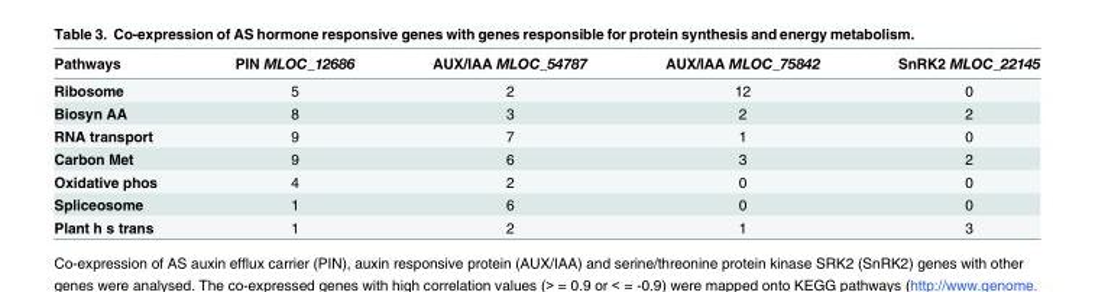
<table><thead><tr><td>Pathways</td><td>PIN MLOC_12686</td><td>AUX/IAA MLOC_54787</td><td>AUX/IAA MLOC_75842</td><td>SnRK2 MLOC_22145</td></tr></thead><tbody><tr><td>Ribosome</td><td>5</td><td>2</td><td>12</td><td>0</td></tr><tr><td>Biosyn AA</td><td>8</td><td>3</td><td>2</td><td>2</td></tr><tr><td>RNA transport</td><td>9</td><td>7</td><td>1</td><td>0</td></tr><tr><td>Carbon Met</td><td>9</td><td>6</td><td>3</td><td>2</td></tr><tr><td>Oxidative phos</td><td>4</td><td>2</td><td>0</td><td>0</td></tr><tr><td>Spliceosome</td><td>1</td><td>6</td><td>0</td><td>0</td></tr><tr><td>Plant h s trans</td><td>1</td><td>2</td><td>1</td><td>3</td></tr></tbody></table>